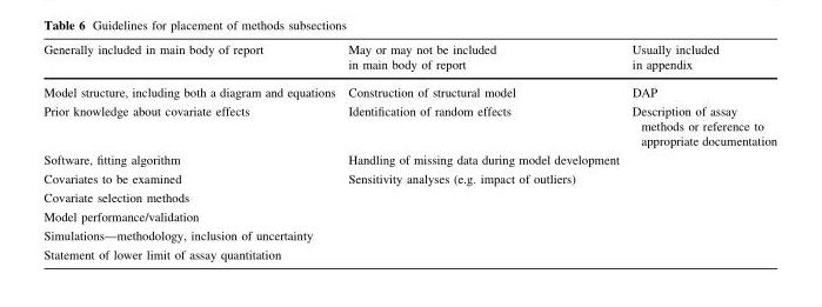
<table><thead><tr><td>Generally included in main body of report</td><td>May or may not be included in main body of report</td><td>Usually included in appendix</td></tr></thead><tbody><tr><td>Model structure, including both a diagram and equations</td><td>Construction of structural model</td><td>DAP</td></tr><tr><td>Prior knowledge about covariate effects</td><td>Identification of random effects</td><td>Description of assay methods or reference to appropriate documentation</td></tr><tr><td>Software, fitting algorithm</td><td>Handling of missing data during model development</td><td></td></tr><tr><td>Covariates to be examined</td><td>Sensitivity analyses (e.g. impact of outliers)</td><td></td></tr><tr><td colspan="3">Covariate selection methods</td></tr><tr><td colspan="3">Model performance/validation</td></tr><tr><td colspan="3">Simulations—methodology, inclusion of uncertainty</td></tr><tr><td>Statement of lower limit of assay quantitation</td><td></td><td></td></tr></tbody></table>